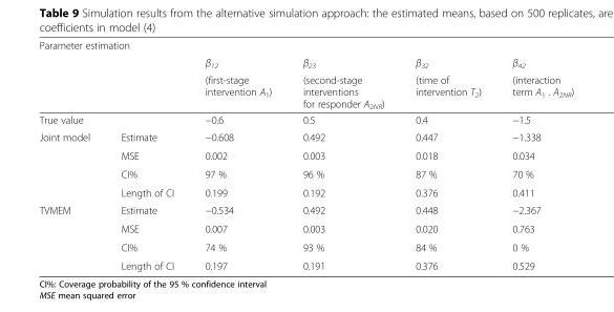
<table><tbody><tr><td colspan="6">Parameter estimation</td></tr><tr><td colspan="2"></td><td>β<sub>12</sub></td><td>β<sub>23</sub></td><td>β<sub>32</sub></td><td>β<sub>42</sub></td></tr><tr><td colspan="2"></td><td>(first-stage intervention A<sub>1</sub>)</td><td>(second-stage interventions for responder A<sub>2NR</sub>)</td><td>(time of intervention T<sub>2</sub>)</td><td>(interaction term A<sub>1</sub> . A<sub>2NR</sub>)</td></tr><tr><td colspan="2">True value</td><td>−0.6</td><td>0.5</td><td>0.4</td><td>−1.5</td></tr><tr><td rowspan="4">Joint model</td><td>Estimate</td><td>−0.608</td><td>0.492</td><td>0.447</td><td>−1.338</td></tr><tr><td>MSE</td><td>0.002</td><td>0.003</td><td>0.018</td><td>0.034</td></tr><tr><td>CI%</td><td>97 %</td><td>96 %</td><td>87 %</td><td>70 %</td></tr><tr><td>Length of CI</td><td>0.199</td><td>0.192</td><td>0.376</td><td>0.411</td></tr><tr><td rowspan="4">TVMEM</td><td>Estimate</td><td>−0.534</td><td>0.492</td><td>0.448</td><td>−2.367</td></tr><tr><td>MSE</td><td>0.007</td><td>0.003</td><td>0.020</td><td>0.763</td></tr><tr><td>CI%</td><td>74 %</td><td>93 %</td><td>84 %</td><td>0 %</td></tr><tr><td>Length of CI</td><td>0.197</td><td>0.191</td><td>0.376</td><td>0.529</td></tr></tbody></table>